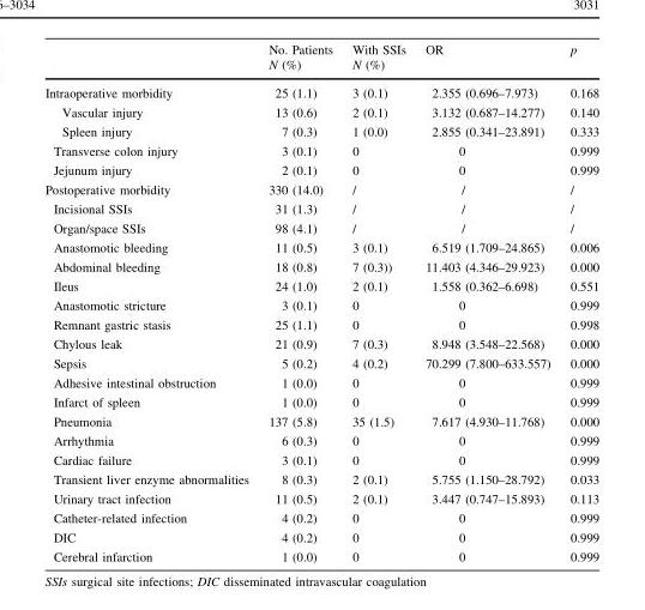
<table><thead><tr><td></td><td>No. Patients N (%)</td><td>With SSIs N (%)</td><td>OR</td><td>p</td></tr></thead><tbody><tr><td>Intraoperative morbidity</td><td>25 (1.1)</td><td>3 (0.1)</td><td>2.355 (0.696–7.973)</td><td>0.168</td></tr><tr><td>Vascular injury</td><td>13 (0.6)</td><td>2 (0.1)</td><td>3.132 (0.687–14.277)</td><td>0.140</td></tr><tr><td>Spleen injury</td><td>7 (0.3)</td><td>1 (0.0)</td><td>2.855 (0.341–23.891)</td><td>0.333</td></tr><tr><td>Transverse colon injury</td><td>3 (0.1)</td><td>0</td><td>0</td><td>0.999</td></tr><tr><td>Jejunum injury</td><td>2 (0.1)</td><td>0</td><td>0</td><td>0.999</td></tr><tr><td>Postoperative morbidity</td><td>330 (14.0)</td><td>/</td><td>/</td><td>/</td></tr><tr><td>Incisional SSIs</td><td>31 (1.3)</td><td>/</td><td>/</td><td>/</td></tr><tr><td>Organ/space SSIs</td><td>98 (4.1)</td><td>/</td><td>/</td><td>/</td></tr><tr><td>Anastomotic bleeding</td><td>11 (0.5)</td><td>3 (0.1)</td><td>6.519 (1.709–24.865)</td><td>0.006</td></tr><tr><td>Abdominal bleeding</td><td>18 (0.8)</td><td>7 (0.3))</td><td>11.403 (4.346–29.923)</td><td>0.000</td></tr><tr><td>Ileus</td><td>24 (1.0)</td><td>2 (0.1)</td><td>1.558 (0.362–6.698)</td><td>0.551</td></tr><tr><td>Anastomotic stricture</td><td>3 (0.1)</td><td>0</td><td>0</td><td>0.999</td></tr><tr><td>Remnant gastric stasis</td><td>25 (1.1)</td><td>0</td><td>0</td><td>0.998</td></tr><tr><td>Chylous leak</td><td>21 (0.9)</td><td>7 (0.3)</td><td>8.948 (3.548–22.568)</td><td>0.000</td></tr><tr><td>Sepsis</td><td>5 (0.2)</td><td>4 (0.2)</td><td>70.299 (7.800–633.557)</td><td>0.000</td></tr><tr><td>Adhesive intestinal obstruction</td><td>1 (0.0)</td><td>0</td><td>0</td><td>0.999</td></tr><tr><td>Infarct of spleen</td><td>1 (0.0)</td><td>0</td><td>0</td><td>0.999</td></tr><tr><td>Pneumonia</td><td>137 (5.8)</td><td>35 (1.5)</td><td>7.617 (4.930–11.768)</td><td>0.000</td></tr><tr><td>Arrhythmia</td><td>6 (0.3)</td><td>0</td><td>0</td><td>0.999</td></tr><tr><td>Cardiac failure</td><td>3 (0.1)</td><td>0</td><td>0</td><td>0.999</td></tr><tr><td>Transient liver enzyme abnormalities</td><td>8 (0.3)</td><td>2 (0.1)</td><td>5.755 (1.150–28.792)</td><td>0.033</td></tr><tr><td>Urinary tract infection</td><td>11 (0.5)</td><td>2 (0.1)</td><td>3.447 (0.747–15.893)</td><td>0.113</td></tr><tr><td>Catheter-related infection</td><td>4 (0.2)</td><td>0</td><td>0</td><td>0.999</td></tr><tr><td>DIC</td><td>4 (0.2)</td><td>0</td><td>0</td><td>0.999</td></tr><tr><td>Cerebral infarction</td><td>1 (0.0)</td><td>0</td><td>0</td><td>0.999</td></tr></tbody></table>